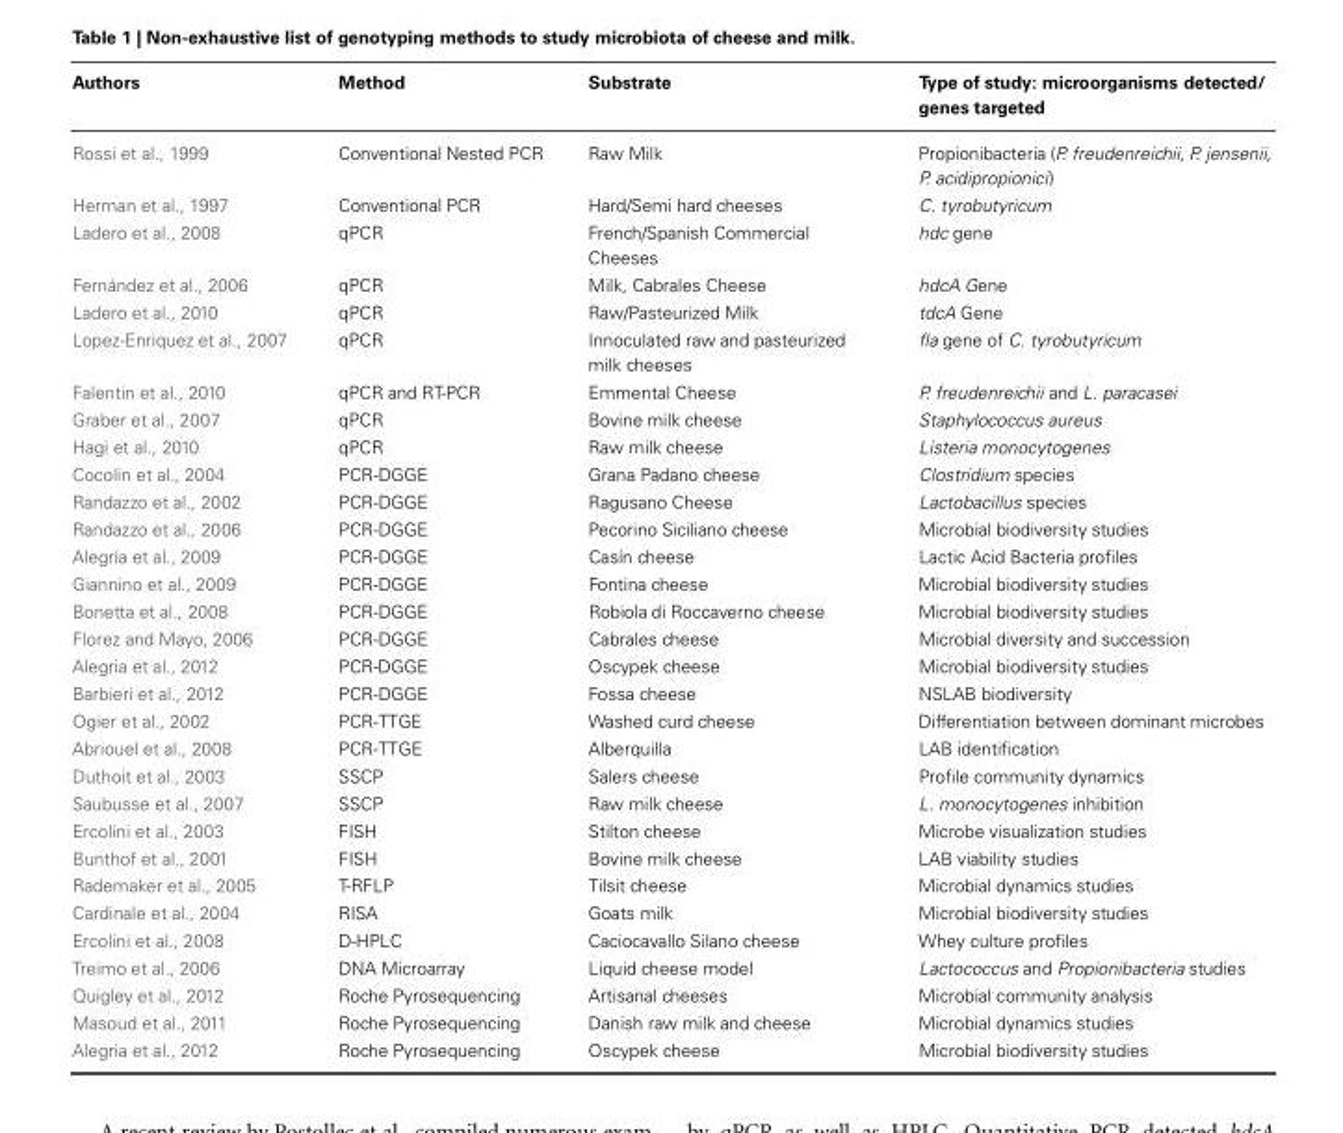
<table><thead><tr><td>Authors</td><td>Method</td><td>Substrate</td><td>Type of study: microorganisms detected/ genes targeted</td></tr></thead><tbody><tr><td>Rossi et al., 1999</td><td>Conventional Nested PCR</td><td>Raw Milk</td><td>Propionibacteria (P. freudenreichii, P. jensenii, P. acidipropionici)</td></tr><tr><td>Herman et al., 1997</td><td>Conventional PCR</td><td>Hard/Semi hard cheeses</td><td>C. tyrobutyricum</td></tr><tr><td>Ladero et al., 2008</td><td>qPCR</td><td>French/Spanish Commercial Cheeses</td><td>hdc gene</td></tr><tr><td>Fernández et al., 2006</td><td>qPCR</td><td>Milk, Cabrales Cheese</td><td>hdcA Gene</td></tr><tr><td>Ladero et al., 2010</td><td>qPCR</td><td>Raw/Pasteurized Milk</td><td>tdcA Gene</td></tr><tr><td>Lopez-Enriquez et al., 2007</td><td>qPCR</td><td>Innoculated raw and pasteurized milk cheeses</td><td>fla gene of C. tyrobutyricum</td></tr><tr><td>Falentin et al., 2010</td><td>qPCR and RT-PCR</td><td>Emmental Cheese</td><td>P. freudenreichii and L. paracasei</td></tr><tr><td>Graber et al., 2007</td><td>qPCR</td><td>Bovine milk cheese</td><td>Staphylococcus aureus</td></tr><tr><td>Hagi et al., 2010</td><td>qPCR</td><td>Raw milk cheese</td><td>Listeria monocytogenes</td></tr><tr><td>Cocolin et al., 2004</td><td>PCR-DGGE</td><td>Grana Padano cheese</td><td>Clostridium species</td></tr><tr><td>Randazzo et al., 2002</td><td>PCR-DGGE</td><td>Ragusano Cheese</td><td>Lactobacillus species</td></tr><tr><td>Randazzo et al., 2006</td><td>PCR-DGGE</td><td>Pecorino Siciliano cheese</td><td>Microbial biodiversity studies</td></tr><tr><td>Alegría et al., 2009</td><td>PCR-DGGE</td><td>Casín cheese</td><td>Lactic Acid Bacteria profiles</td></tr><tr><td>Giannino et al., 2009</td><td>PCR-DGGE</td><td>Fontina cheese</td><td>Microbial biodiversity studies</td></tr><tr><td>Bonetta et al., 2008</td><td>PCR-DGGE</td><td>Robiola di Roccaverno cheese</td><td>Microbial biodiversity studies</td></tr><tr><td>Florez and Mayo, 2006</td><td>PCR-DGGE</td><td>Cabrales cheese</td><td>Microbial diversity and succession</td></tr><tr><td>Alegria et al., 2012</td><td>PCR-DGGE</td><td>Oscypek cheese</td><td>Microbial biodiversity studies</td></tr><tr><td>Barbieri et al., 2012</td><td>PCR-DGGE</td><td>Fossa cheese</td><td>NSLAB biodiversity</td></tr><tr><td>Ogier et al., 2002</td><td>PCR-TTGE</td><td>Washed curd cheese</td><td>Differentiation between dominant microbes</td></tr><tr><td>Abriouel et al., 2008</td><td>PCR-TTGE</td><td>Alberquilla</td><td>LAB identification</td></tr><tr><td>Duthoit et al., 2003</td><td>SSCP</td><td>Salers cheese</td><td>Profile community dynamics</td></tr><tr><td>Saubusse et al., 2007</td><td>SSCP</td><td>Raw milk cheese</td><td>L. monocytogenes inhibition</td></tr><tr><td>Ercolini et al., 2003</td><td>FISH</td><td>Stilton cheese</td><td>Microbe visualization studies</td></tr><tr><td>Bunthof et al., 2001</td><td>FISH</td><td>Bovine milk cheese</td><td>LAB viability studies</td></tr><tr><td>Rademaker et al., 2005</td><td>T-RFLP</td><td>Tilsit cheese</td><td>Microbial dynamics studies</td></tr><tr><td>Cardinale et al., 2004</td><td>RISA</td><td>Goats milk</td><td>Microbial biodiversity studies</td></tr><tr><td>Ercolini et al., 2008</td><td>D-HPLC</td><td>Caciocavallo Silano cheese</td><td>Whey culture profiles</td></tr><tr><td>Treimo et al., 2006</td><td>DNA Microarray</td><td>Liquid cheese model</td><td>Lactococcus and Propionibacteria studies</td></tr><tr><td>Quigley et al., 2012</td><td>Roche Pyrosequencing</td><td>Artisanal cheeses</td><td>Microbial community analysis</td></tr><tr><td>Masoud et al., 2011</td><td>Roche Pyrosequencing</td><td>Danish raw milk and cheese</td><td>Microbial dynamics studies</td></tr><tr><td>Alegria et al., 2012</td><td>Roche Pyrosequencing</td><td>Oscypek cheese</td><td>Microbial biodiversity studies</td></tr></tbody></table>